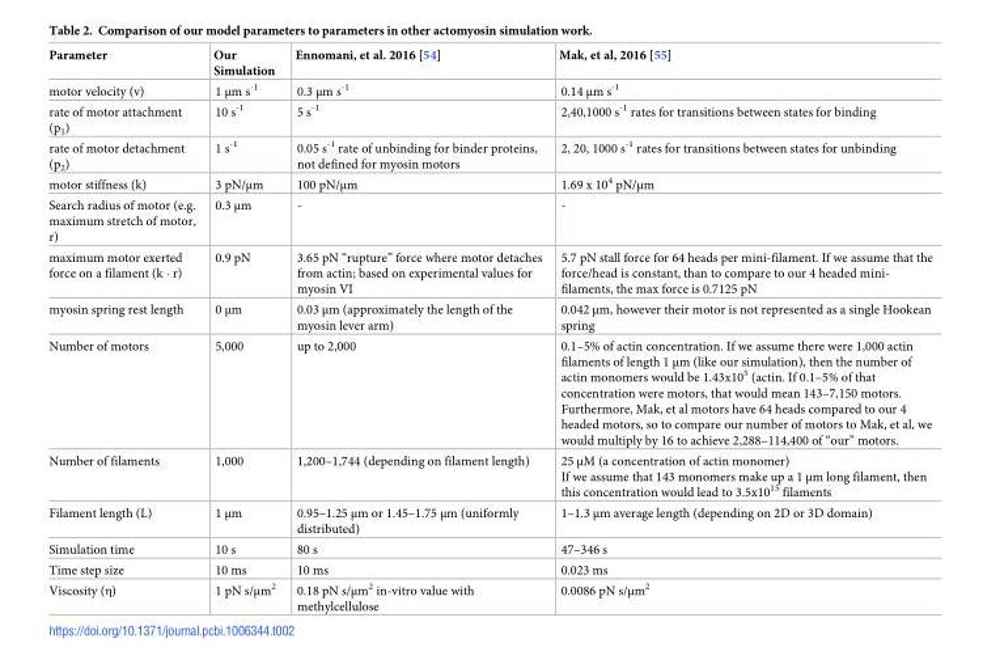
<table><thead><tr><td>Parameter</td><td>Our Simulation</td><td>Ennomani, et al. 2016 [54]</td><td>Mak, et al, 2016 [55]</td></tr></thead><tbody><tr><td>motor velocity (v)</td><td>1 μm s<sup>-1</sup></td><td>0.3 μm s<sup>-1</sup></td><td>0.14 μm s<sup>-1</sup></td></tr><tr><td>rate of motor attachment (p<sub>1</sub>)</td><td>10 s<sup>-1</sup></td><td>5 s<sup>-1</sup></td><td>2,40,1000 s<sup>-1</sup> rates for transitions between states for binding</td></tr><tr><td>rate of motor detachment (p<sub>2</sub>)</td><td>1 s<sup>-1</sup></td><td>0.05 s<sup>-1</sup> rate of unbinding for binder proteins, not defined for myosin motors</td><td>2, 20, 1000 s<sup>-1</sup> rates for transitions between states for unbinding</td></tr><tr><td>motor stiffness (k)</td><td>3 pN/μm</td><td>100 pN/μm</td><td>1.69 x 10<sup>4</sup> pN/μm</td></tr><tr><td>Search radius of motor (e.g. maximum stretch of motor, r)</td><td>0.3 μm</td><td>-</td><td>-</td></tr><tr><td>maximum motor exerted force on a filament (k · r)</td><td>0.9 pN</td><td>3.65 pN “rupture” force where motor detaches from actin; based on experimental values for myosin VI</td><td>5.7 pN stall force for 64 heads per mini-filament. If we assume that the force/head is constant, than to compare to our 4 headed mini- filaments, the max force is 0.7125 pN</td></tr><tr><td>myosin spring rest length</td><td>0 μm</td><td>0.03 μm (approximately the length of the myosin lever arm)</td><td>0.042 μm, however their motor is not represented as a single Hookean spring</td></tr><tr><td>Number of motors</td><td>5,000</td><td>up to 2,000</td><td>0.1–5% of actin concentration. If we assume there were 1,000 actin filaments of length 1 μm (like our simulation), then the number of actin monomers would be 1.43x10<sup>5</sup> (actin. If 0.1–5% of that concentration were motors, that would mean 143–7,150 motors. Furthermore, Mak, et al motors have 64 heads compared to our 4 headed motors, so to compare our number of motors to Mak, et al, we would multiply by 16 to achieve 2,288–114,400 of “our” motors.</td></tr><tr><td>Number of filaments</td><td>1,000</td><td>1,200–1,744 (depending on filament length)</td><td>25 μM (a concentration of actin monomer) If we assume that 143 monomers make up a 1 μm long filament, then this concentration would lead to 3.5x10<sup>15</sup> filaments</td></tr><tr><td>Filament length (L)</td><td>1 μm</td><td>0.95–1.25 μm or 1.45–1.75 μm (uniformly distributed)</td><td>1–1.3 μm average length (depending on 2D or 3D domain)</td></tr><tr><td>Simulation time</td><td>10 s</td><td>80 s</td><td>47–346 s</td></tr><tr><td>Time step size</td><td>10 ms</td><td>10 ms</td><td>0.023 ms</td></tr><tr><td>Viscosity (η)</td><td>1 pN s/μm<sup>2</sup></td><td>0.18 pN s/μm<sup>2</sup> in-vitro value with methylcellulose</td><td>0.0086 pN s/μm<sup>2</sup></td></tr></tbody></table>